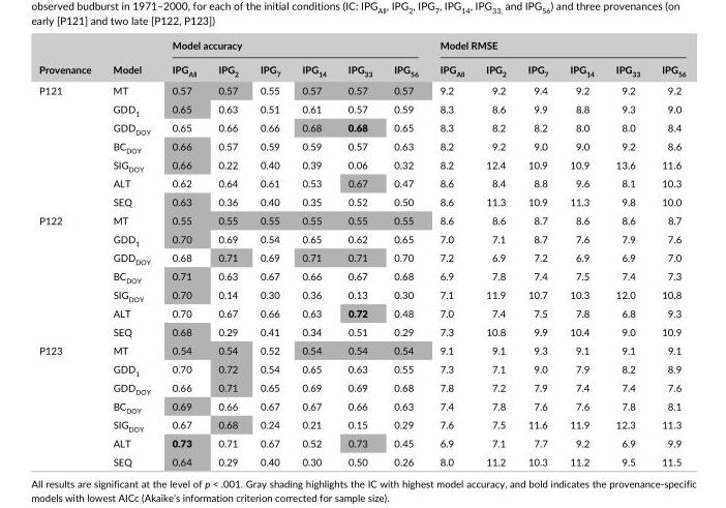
<table><thead><tr><td rowspan="2">Provenance</td><td rowspan="2">Model</td><td colspan="6">Model accuracy</td><td colspan="6">Model RMSE</td></tr><tr><td>IPG<sub>All</sub></td><td>IPG<sub>2</sub></td><td>IPG<sub>7</sub></td><td>IPG<sub>14</sub></td><td>IPG<sub>33</sub></td><td>IPG<sub>56</sub></td><td>IPG<sub>All</sub></td><td>IPG<sub>2</sub></td><td>IPG<sub>7</sub></td><td>IPG<sub>14</sub></td><td>IPG<sub>33</sub></td><td>IPG<sub>56</sub></td></tr></thead><tbody><tr><td rowspan="7">P121</td><td>MT</td><td>0.57</td><td>0.57</td><td>0.55</td><td>0.57</td><td>0.57</td><td>0.57</td><td>9.2</td><td>9.2</td><td>9.4</td><td>9.2</td><td>9.2</td><td>9.2</td></tr><tr><td>GDD<sub>1</sub></td><td>0.65</td><td>0.63</td><td>0.51</td><td>0.61</td><td>0.57</td><td>0.59</td><td>8.3</td><td>8.6</td><td>9.9</td><td>8.8</td><td>9.3</td><td>9.0</td></tr><tr><td>GDD<sub>DOY</sub></td><td>0.65</td><td>0.66</td><td>0.66</td><td>0.68</td><td>0.68</td><td>0.65</td><td>8.3</td><td>8.2</td><td>8.2</td><td>8.0</td><td>8.0</td><td>8.4</td></tr><tr><td>BC<sub>DOY</sub></td><td>0.66</td><td>0.57</td><td>0.59</td><td>0.59</td><td>0.57</td><td>0.63</td><td>8.2</td><td>9.2</td><td>9.0</td><td>9.0</td><td>9.2</td><td>8.6</td></tr><tr><td>SIG<sub>DOY</sub></td><td>0.66</td><td>0.22</td><td>0.40</td><td>0.39</td><td>0.06</td><td>0.32</td><td>8.2</td><td>12.4</td><td>10.9</td><td>10.9</td><td>13.6</td><td>11.6</td></tr><tr><td>ALT</td><td>0.62</td><td>0.64</td><td>0.61</td><td>0.53</td><td>0.67</td><td>0.47</td><td>8.6</td><td>8.4</td><td>8.8</td><td>9.6</td><td>8.1</td><td>10.3</td></tr><tr><td>SEQ</td><td>0.63</td><td>0.36</td><td>0.40</td><td>0.35</td><td>0.52</td><td>0.50</td><td>8.6</td><td>11.3</td><td>10.9</td><td>11.3</td><td>9.8</td><td>10.0</td></tr><tr><td rowspan="7">P122</td><td>MT</td><td>0.55</td><td>0.55</td><td>0.55</td><td>0.55</td><td>0.55</td><td>0.55</td><td>8.6</td><td>8.6</td><td>8.7</td><td>8.6</td><td>8.6</td><td>8.7</td></tr><tr><td>GDD<sub>1</sub></td><td>0.70</td><td>0.69</td><td>0.54</td><td>0.65</td><td>0.62</td><td>0.65</td><td>7.0</td><td>7.1</td><td>8.7</td><td>7.6</td><td>7.9</td><td>7.6</td></tr><tr><td>GDD<sub>DOY</sub></td><td>0.68</td><td>0.71</td><td>0.69</td><td>0.71</td><td>0.71</td><td>0.70</td><td>7.2</td><td>6.9</td><td>7.2</td><td>6.9</td><td>6.9</td><td>7.0</td></tr><tr><td>BC<sub>DOY</sub></td><td>0.71</td><td>0.63</td><td>0.67</td><td>0.66</td><td>0.67</td><td>0.68</td><td>6.9</td><td>7.8</td><td>7.4</td><td>7.5</td><td>7.4</td><td>7.3</td></tr><tr><td>SIG<sub>DOY</sub></td><td>0.70</td><td>0.14</td><td>0.30</td><td>0.36</td><td>0.13</td><td>0.30</td><td>7.1</td><td>11.9</td><td>10.7</td><td>10.3</td><td>12.0</td><td>10.8</td></tr><tr><td>ALT</td><td>0.70</td><td>0.67</td><td>0.66</td><td>0.63</td><td>0.72</td><td>0.48</td><td>7.0</td><td>7.4</td><td>7.5</td><td>7.8</td><td>6.8</td><td>9.3</td></tr><tr><td>SEQ</td><td>0.68</td><td>0.29</td><td>0.41</td><td>0.34</td><td>0.51</td><td>0.29</td><td>7.3</td><td>10.8</td><td>9.9</td><td>10.4</td><td>9.0</td><td>10.9</td></tr><tr><td rowspan="7">P123</td><td>MT</td><td>0.54</td><td>0.54</td><td>0.52</td><td>0.54</td><td>0.54</td><td>0.54</td><td>9.1</td><td>9.1</td><td>9.3</td><td>9.1</td><td>9.1</td><td>9.1</td></tr><tr><td>GDD<sub>1</sub></td><td>0.70</td><td>0.72</td><td>0.54</td><td>0.65</td><td>0.63</td><td>0.55</td><td>7.3</td><td>7.1</td><td>9.0</td><td>7.9</td><td>8.2</td><td>8.9</td></tr><tr><td>GDD<sub>DOY</sub></td><td>0.66</td><td>0.71</td><td>0.65</td><td>0.69</td><td>0.69</td><td>0.68</td><td>7.8</td><td>7.2</td><td>7.9</td><td>7.4</td><td>7.4</td><td>7.6</td></tr><tr><td>BC<sub>DOY</sub></td><td>0.69</td><td>0.66</td><td>0.67</td><td>0.67</td><td>0.66</td><td>0.63</td><td>7.4</td><td>7.8</td><td>7.6</td><td>7.6</td><td>7.8</td><td>8.1</td></tr><tr><td>SIG<sub>DOY</sub></td><td>0.67</td><td>0.68</td><td>0.24</td><td>0.21</td><td>0.15</td><td>0.29</td><td>7.6</td><td>7.5</td><td>11.6</td><td>11.9</td><td>12.3</td><td>11.3</td></tr><tr><td>ALT</td><td>0.73</td><td>0.71</td><td>0.67</td><td>0.52</td><td>0.73</td><td>0.45</td><td>6.9</td><td>7.1</td><td>7.7</td><td>9.2</td><td>6.9</td><td>9.9</td></tr><tr><td>SEQ</td><td>0.64</td><td>0.29</td><td>0.40</td><td>0.30</td><td>0.50</td><td>0.26</td><td>8.0</td><td>11.2</td><td>10.3</td><td>11.2</td><td>9.5</td><td>11.5</td></tr></tbody></table>